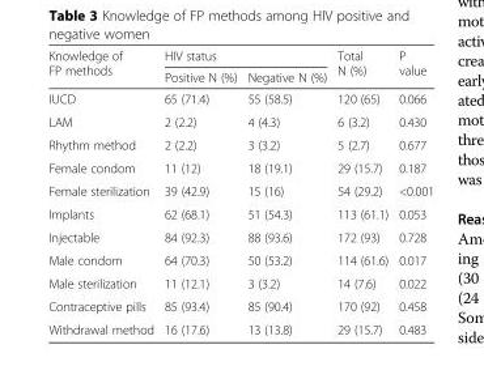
<table><thead><tr><td rowspan="2">Knowledge of FP methods</td><td colspan="2">HIV status</td><td rowspan="2">Total N (%)</td><td rowspan="2">P value</td></tr><tr><td>Positive N (%)</td><td>Negative N (%)</td></tr></thead><tbody><tr><td>IUCD</td><td>65 (71.4)</td><td>55 (58.5)</td><td>120 (65)</td><td>0.066</td></tr><tr><td>LAM</td><td>2 (2.2)</td><td>4 (4.3)</td><td>6 (3.2)</td><td>0.430</td></tr><tr><td>Rhythm method</td><td>2 (2.2)</td><td>3 (3.2)</td><td>5 (2.7)</td><td>0.677</td></tr><tr><td>Female condom</td><td>11 (12)</td><td>18 (19.1)</td><td>29 (15.7)</td><td>0.187</td></tr><tr><td>Female sterilization</td><td>39 (42.9)</td><td>15 (16)</td><td>54 (29.2)</td><td>&lt;0.001</td></tr><tr><td>Implants</td><td>62 (68.1)</td><td>51 (54.3)</td><td>113 (61.1)</td><td>0.053</td></tr><tr><td>Injectable</td><td>84 (92.3)</td><td>88 (93.6)</td><td>172 (93)</td><td>0.728</td></tr><tr><td>Male condom</td><td>64 (70.3)</td><td>50 (53.2)</td><td>114 (61.6)</td><td>0.017</td></tr><tr><td>Male sterilization</td><td>11 (12.1)</td><td>3 (3.2)</td><td>14 (7.6)</td><td>0.022</td></tr><tr><td>Contraceptive pills</td><td>85 (93.4)</td><td>85 (90.4)</td><td>170 (92)</td><td>0.458</td></tr><tr><td>Withdrawal method</td><td>16 (17.6)</td><td>13 (13.8)</td><td>29 (15.7)</td><td>0.483</td></tr></tbody></table>